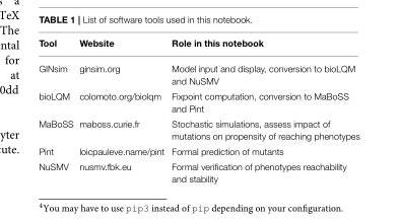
<table><thead><tr><td>Tool</td><td>Website</td><td>Role in this notebook</td></tr></thead><tbody><tr><td>GINsim</td><td>ginsim.org</td><td>Model input and display, conversion to bioLQM and NuSMV</td></tr><tr><td>bioLQM</td><td>colomoto.org/biolqm</td><td>Fixpoint computation, conversion to MaBoSS and Pint</td></tr><tr><td>MaBoSS</td><td>maboss.curie.fr</td><td>Stochastic simulations, assess impact of mutations on propensity of reaching phenotypes</td></tr><tr><td>Pint</td><td>loicpauleve.name/pint</td><td>Formal prediction of mutants</td></tr><tr><td>NuSMV</td><td>nusmv.fbk.eu</td><td>Formal verification of phenotypes reachability and stability</td></tr></tbody></table>